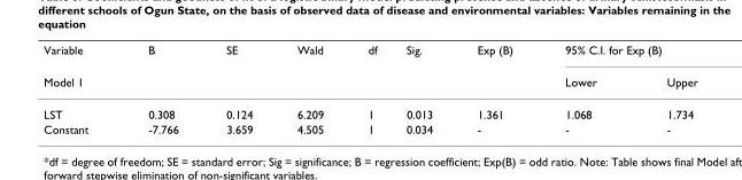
<table><thead><tr><td rowspan="2">Variable Model 1</td><td rowspan="2">B</td><td rowspan="2">SE</td><td rowspan="2">Wald</td><td rowspan="2">df</td><td rowspan="2">Sig.</td><td rowspan="2">Exp (B)</td><td colspan="2">95% C.I. for Exp (B)</td></tr><tr><td>Lower</td><td>Upper</td></tr></thead><tbody><tr><td>LST</td><td>0.308</td><td>0.124</td><td>6.209</td><td>1</td><td>0.013</td><td>1.361</td><td>1.068</td><td>1.734</td></tr><tr><td>Constant</td><td>-7.766</td><td>3.659</td><td>4.505</td><td>1</td><td>0.034</td><td>-</td><td>-</td><td>-</td></tr></tbody></table>